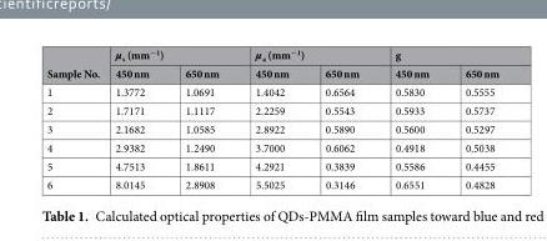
<table><thead><tr><td rowspan="2">Sample No.</td><td colspan="2">µ<sub>s</sub> (mm<sup>−1</sup>)</td><td colspan="2">µ<sub>a</sub> (mm<sup>−1</sup>)</td><td colspan="2">g</td></tr><tr><td>450 nm</td><td>650 nm</td><td>450 nm</td><td>650 nm</td><td>450 nm</td><td>650 nm</td></tr></thead><tbody><tr><td>1</td><td>1.3772</td><td>1.0691</td><td>1.4042</td><td>0.6564</td><td>0.5830</td><td>0.5555</td></tr><tr><td>2</td><td>1.7171</td><td>1.1117</td><td>2.2259</td><td>0.5543</td><td>0.5933</td><td>0.5737</td></tr><tr><td>3</td><td>2.1682</td><td>1.0585</td><td>2.8922</td><td>0.5890</td><td>0.5600</td><td>0.5297</td></tr><tr><td>4</td><td>2.9382</td><td>1.2490</td><td>3.7000</td><td>0.6062</td><td>0.4918</td><td>0.5038</td></tr><tr><td>5</td><td>4.7513</td><td>1.8611</td><td>4.2921</td><td>0.3839</td><td>0.5586</td><td>0.4455</td></tr><tr><td>6</td><td>8.0145</td><td>2.8908</td><td>5.5025</td><td>0.3146</td><td>0.6551</td><td>0.4828</td></tr></tbody></table>